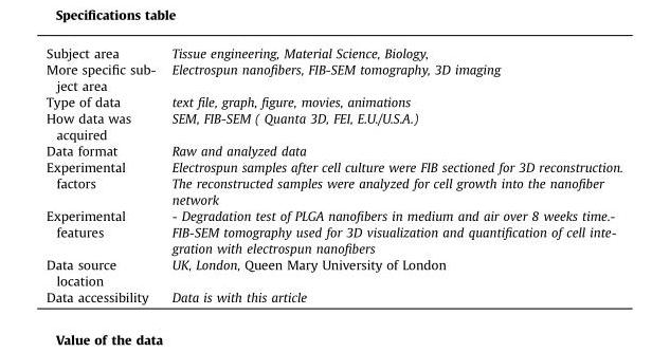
<table><tbody><tr><td>Subject area</td><td>Tissue engineering, Material Science, Biology,</td></tr><tr><td>More specific sub- ject area</td><td>Electrospun nanofibers, FIB-SEM tomography, 3D imaging</td></tr><tr><td>Type of data</td><td>text file, graph, figure, movies, animations</td></tr><tr><td>How data was acquired</td><td>SEM, FIB-SEM ( Quanta 3D, FEI, E.U./U.S.A.)</td></tr><tr><td>Data format</td><td>Raw and analyzed data</td></tr><tr><td>Experimental factors</td><td>Electrospun samples after cell culture were FIB sectioned for 3D reconstruction. The reconstructed samples were analyzed for cell growth into the nanofiber network</td></tr><tr><td>Experimental features</td><td>- Degradation test of PLGA nanofibers in medium and air over 8 weeks time.- FIB-SEM tomography used for 3D visualization and quantification of cell inte- gration with electrospun nanofibers</td></tr><tr><td>Data source location</td><td>UK, London, Queen Mary University of London</td></tr><tr><td>Data accessibility</td><td>Data is with this article</td></tr></tbody></table>